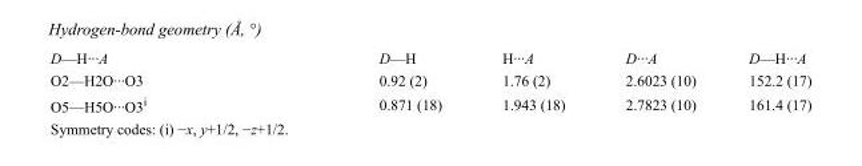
<table><tbody><tr><td>D—H···A</td><td>D—H</td><td>H···A</td><td>D···A</td><td>D—H···A</td></tr><tr><td>O2—H2O···O3</td><td>0.92 (2)</td><td>1.76 (2)</td><td>2.6023 (10)</td><td>152.2 (17)</td></tr><tr><td>O5—H5O···O3<sup>i</sup></td><td>0.871 (18)</td><td>1.943 (18)</td><td>2.7823 (10)</td><td>161.4 (17)</td></tr></tbody></table>